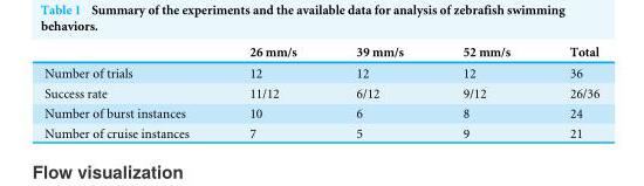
<table><thead><tr><td></td><td>26 mm/s</td><td>39 mm/s</td><td>52 mm/s</td><td>Total</td></tr></thead><tbody><tr><td>Number of trials</td><td>12</td><td>12</td><td>12</td><td>36</td></tr><tr><td>Success rate</td><td>11/12</td><td>6/12</td><td>9/12</td><td>26/36</td></tr><tr><td>Number of burst instances</td><td>10</td><td>6</td><td>8</td><td>24</td></tr><tr><td>Number of cruise instances</td><td>7</td><td>5</td><td>9</td><td>21</td></tr></tbody></table>